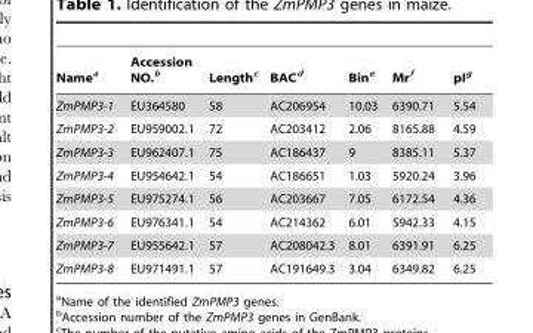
<table><thead><tr><td>Name<sup>a</sup></td><td>Accession NO.<sup>b</sup></td><td>Length<sup>c</sup></td><td>BAC<sup>d</sup></td><td>Bin<sup>e</sup></td><td>Mr<sup>f</sup></td><td>pI<sup>g</sup></td></tr></thead><tbody><tr><td>ZmPMP3-1</td><td>EU364580</td><td>58</td><td>AC206954</td><td>10.03</td><td>6390.71</td><td>5.54</td></tr><tr><td>ZmPMP3-2</td><td>EU959002.1</td><td>72</td><td>AC203412</td><td>2.06</td><td>8165.88</td><td>4.59</td></tr><tr><td>ZmPMP3-3</td><td>EU962407.1</td><td>75</td><td>AC186437</td><td>9</td><td>8385.11</td><td>5.37</td></tr><tr><td>ZmPMP3-4</td><td>EU954642.1</td><td>54</td><td>AC186651</td><td>1.03</td><td>5920.24</td><td>3.96</td></tr><tr><td>ZmPMP3-5</td><td>EU975274.1</td><td>56</td><td>AC203667</td><td>7.05</td><td>6172.54</td><td>4.36</td></tr><tr><td>ZmPMP3-6</td><td>EU976341.1</td><td>54</td><td>AC214362</td><td>6.01</td><td>5942.33</td><td>4.15</td></tr><tr><td>ZmPMP3-7</td><td>EU955642.1</td><td>57</td><td>AC208042.3</td><td>8.01</td><td>6391.91</td><td>6.25</td></tr><tr><td>ZmPMP3-8</td><td>EU971491.1</td><td>57</td><td>AC191649.3</td><td>3.04</td><td>6349.82</td><td>6.25</td></tr></tbody></table>